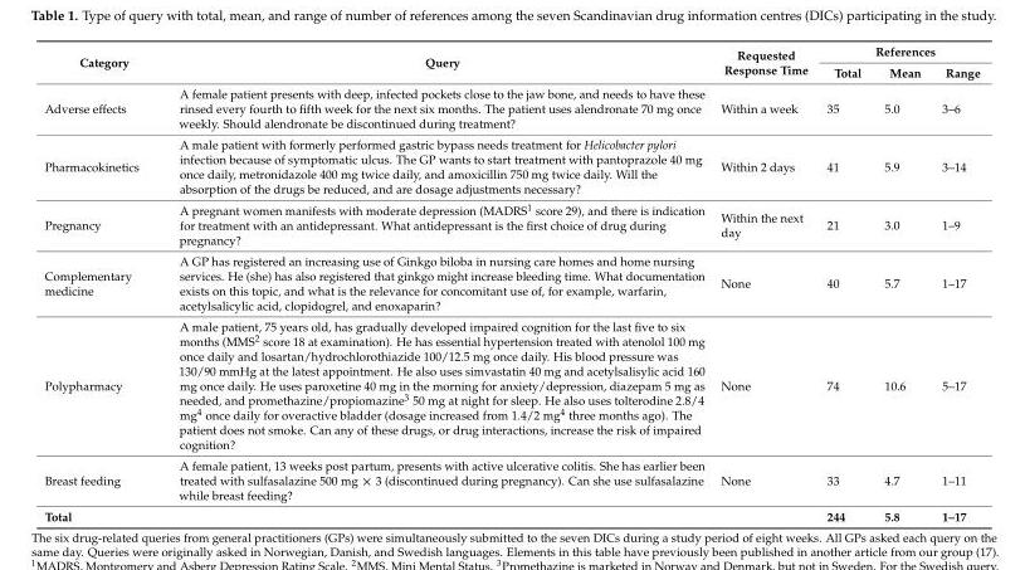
<table><thead><tr><td rowspan="2">Category</td><td rowspan="2">Query</td><td rowspan="2">Requested Response Time</td><td colspan="3">References</td></tr><tr><td>Total</td><td>Mean</td><td>Range</td></tr></thead><tbody><tr><td>Adverse effects</td><td>A female patient presents with deep, infected pockets close to the jaw bone, and needs to have these rinsed every fourth to fifth week for the next six months. The patient uses alendronate 70 mg once weekly. Should alendronate be discontinued during treatment?</td><td>Within a week</td><td>35</td><td>5.0</td><td>3–6</td></tr><tr><td>Pharmacokinetics</td><td>A male patient with formerly performed gastric bypass needs treatment for Helicobacter pylori infection because of symptomatic ulcus. The GP wants to start treatment with pantoprazole 40 mg once daily, metronidazole 400 mg twice daily, and amoxicillin 750 mg twice daily. Will the absorption of the drugs be reduced, and are dosage adjustments necessary?</td><td>Within 2 days</td><td>41</td><td>5.9</td><td>3–14</td></tr><tr><td>Pregnancy</td><td>A pregnant women manifests with moderate depression (MADRS<sup>1</sup> score 29), and there is indication for treatment with an antidepressant. What antidepressant is the first choice of drug during pregnancy?</td><td>Within the next day</td><td>21</td><td>3.0</td><td>1–9</td></tr><tr><td>Complementary medicine</td><td>A GP has registered an increasing use of Ginkgo biloba in nursing care homes and home nursing services. He (she) has also registered that ginkgo might increase bleeding time. What documentation exists on this topic, and what is the relevance for concomitant use of, for example, warfarin, acetylsalicylic acid, clopidogrel, and enoxaparin?</td><td>None</td><td>40</td><td>5.7</td><td>1–17</td></tr><tr><td>Polypharmacy</td><td>A male patient, 75 years old, has gradually developed impaired cognition for the last five to six months (MMS<sup>2</sup> score 18 at examination). He has essential hypertension treated with atenolol 100 mg once daily and losartan/hydrochlorothiazide 100/12.5 mg once daily. His blood pressure was 130/90 mmHg at the latest appointment. He also uses simvastatin 40 mg and acetylsalisylic acid 160 mg once daily. He uses paroxetine 40 mg in the morning for anxiety/depression, diazepam 5 mg as needed, and promethazine/propiomazine<sup>3</sup> 50 mg at night for sleep. He also uses tolterodine 2.8/4 mg<sup>4</sup> once daily for overactive bladder (dosage increased from 1.4/2 mg<sup>4</sup> three months ago). The patient does not smoke. Can any of these drugs, or drug interactions, increase the risk of impaired cognition?</td><td>None</td><td>74</td><td>10.6</td><td>5–17</td></tr><tr><td>Breast feeding</td><td>A female patient, 13 weeks post partum, presents with active ulcerative colitis. She has earlier been treated with sulfasalazine 500 mg × 3 (discontinued during pregnancy). Can she use sulfasalazine while breast feeding?</td><td>None</td><td>33</td><td>4.7</td><td>1–11</td></tr><tr><td>Total</td><td></td><td></td><td>244</td><td>5.8</td><td>1–17</td></tr></tbody></table>